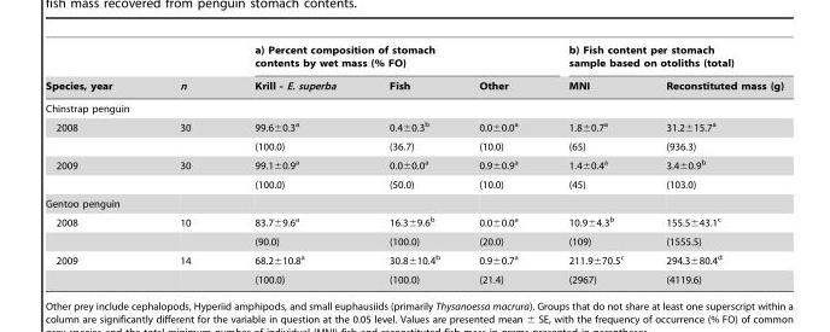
<table><thead><tr><td rowspan="2">Species, year</td><td rowspan="2">n</td><td colspan="3">a) Percent composition of stomach contents by wet mass (% FO)</td><td colspan="2">b) Fish content per stomach sample based on otoliths (total)</td></tr><tr><td>Krill - E. superba</td><td>Fish</td><td>Other</td><td>MNI</td><td>Reconstituted mass (g)</td></tr></thead><tbody><tr><td colspan="7">Chinstrap penguin</td></tr><tr><td rowspan="2">2008</td><td>30</td><td>99.6±0.3<sup>a</sup></td><td>0.4±0.3<sup>b</sup></td><td>0.0±0.0<sup>a</sup></td><td>1.8±0.7<sup>a</sup></td><td>31.2±15.7<sup>a</sup></td></tr><tr><td></td><td>(100.0)</td><td>(36.7)</td><td>(10.0)</td><td>(65)</td><td>(936.3)</td></tr><tr><td rowspan="2">2009</td><td>30</td><td>99.1±0.9<sup>a</sup></td><td>0.0±0.0<sup>a</sup></td><td>0.9±0.9<sup>a</sup></td><td>1.4±0.4<sup>a</sup></td><td>3.4±0.9<sup>b</sup></td></tr><tr><td></td><td>(100.0)</td><td>(50.0)</td><td>(10.0)</td><td>(45)</td><td>(103.0)</td></tr><tr><td colspan="7">Gentoo penguin</td></tr><tr><td rowspan="2">2008</td><td>10</td><td>83.7±9.6<sup>a</sup></td><td>16.3±9.6<sup>b</sup></td><td>0.0±0.0<sup>a</sup></td><td>10.9±4.3<sup>b</sup></td><td>155.5±43.1<sup>c</sup></td></tr><tr><td></td><td>(90.0)</td><td>(100.0)</td><td>(20.0)</td><td>(109)</td><td>(1555.5)</td></tr><tr><td rowspan="2">2009</td><td>14</td><td>68.2±10.8<sup>a</sup></td><td>30.8±10.4<sup>b</sup></td><td>0.9±0.7<sup>a</sup></td><td>211.9±70.5<sup>c</sup></td><td>294.3±80.4<sup>d</sup></td></tr><tr><td></td><td>(100.0)</td><td>(100.0)</td><td>(21.4)</td><td>(2967)</td><td>(4119.6)</td></tr></tbody></table>